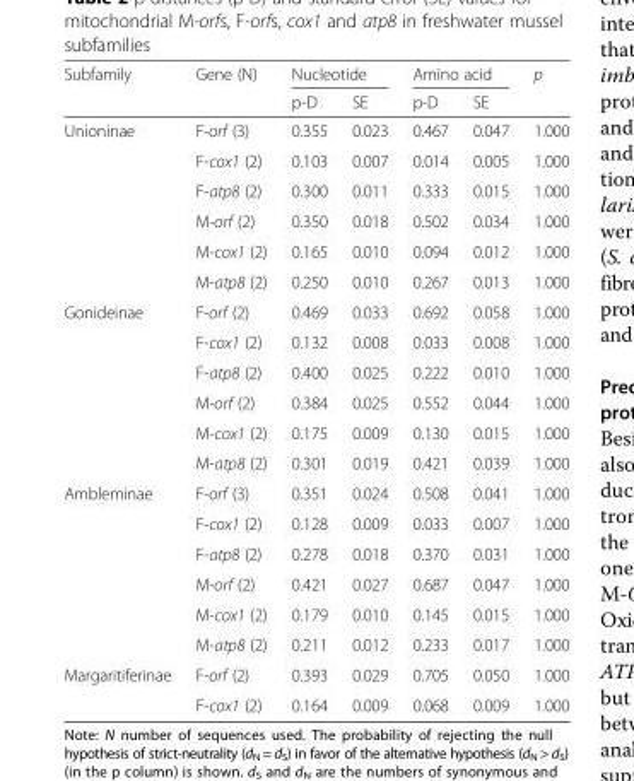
<table><thead><tr><td rowspan="2">Subfamily</td><td rowspan="2">Gene (N)</td><td colspan="2">Nucleotide</td><td colspan="2">Amino acid</td><td rowspan="2">p</td></tr><tr><td>p-D</td><td>SE</td><td>p-D</td><td>SE</td></tr></thead><tbody><tr><td rowspan="6">Unioninae</td><td>F-orf (3)</td><td>0.355</td><td>0.023</td><td>0.467</td><td>0.047</td><td>1.000</td></tr><tr><td>F-cox1 (2)</td><td>0.103</td><td>0.007</td><td>0.014</td><td>0.005</td><td>1.000</td></tr><tr><td>F-atp8 (2)</td><td>0.300</td><td>0.011</td><td>0.333</td><td>0.015</td><td>1.000</td></tr><tr><td>M-orf (2)</td><td>0.350</td><td>0.018</td><td>0.502</td><td>0.034</td><td>1.000</td></tr><tr><td>M-cox1 (2)</td><td>0.165</td><td>0.010</td><td>0.094</td><td>0.012</td><td>1.000</td></tr><tr><td>M-atp8 (2)</td><td>0.250</td><td>0.010</td><td>0.267</td><td>0.013</td><td>1.000</td></tr><tr><td rowspan="6">Gonideinae</td><td>F-orf (2)</td><td>0.469</td><td>0.033</td><td>0.692</td><td>0.058</td><td>1.000</td></tr><tr><td>F-cox1 (2)</td><td>0.132</td><td>0.008</td><td>0.033</td><td>0.008</td><td>1.000</td></tr><tr><td>F-atp8 (2)</td><td>0.400</td><td>0.025</td><td>0.222</td><td>0.010</td><td>1.000</td></tr><tr><td>M-orf (2)</td><td>0.384</td><td>0.025</td><td>0.552</td><td>0.044</td><td>1.000</td></tr><tr><td>M-cox1 (2)</td><td>0.175</td><td>0.009</td><td>0.130</td><td>0.015</td><td>1.000</td></tr><tr><td>M-atp8 (2)</td><td>0.301</td><td>0.019</td><td>0.421</td><td>0.039</td><td>1.000</td></tr><tr><td rowspan="6">Ambleminae</td><td>F-orf (3)</td><td>0.351</td><td>0.024</td><td>0.508</td><td>0.041</td><td>1.000</td></tr><tr><td>F-cox1 (2)</td><td>0.128</td><td>0.009</td><td>0.033</td><td>0.007</td><td>1.000</td></tr><tr><td>F-atp8 (2)</td><td>0.278</td><td>0.018</td><td>0.370</td><td>0.031</td><td>1.000</td></tr><tr><td>M-orf (2)</td><td>0.421</td><td>0.027</td><td>0.687</td><td>0.047</td><td>1.000</td></tr><tr><td>M-cox1 (2)</td><td>0.179</td><td>0.010</td><td>0.145</td><td>0.015</td><td>1.000</td></tr><tr><td>M-atp8 (2)</td><td>0.211</td><td>0.012</td><td>0.233</td><td>0.017</td><td>1.000</td></tr><tr><td rowspan="2">Margaritiferinae</td><td>F-orf (2)</td><td>0.393</td><td>0.029</td><td>0.705</td><td>0.050</td><td>1.000</td></tr><tr><td>F-cox1 (2)</td><td>0.164</td><td>0.009</td><td>0.068</td><td>0.009</td><td>1.000</td></tr></tbody></table>